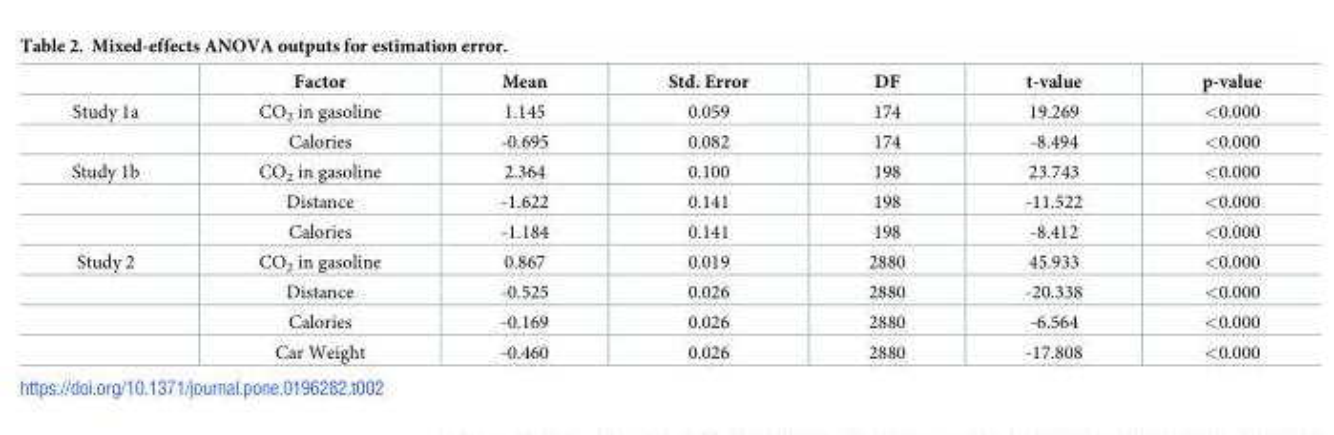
<table><thead><tr><td></td><td>Factor</td><td>Mean</td><td>Std. Error</td><td>DF</td><td>t-value</td><td>p-value</td></tr></thead><tbody><tr><td rowspan="2">Study 1a</td><td>CO<sub>2</sub> in gasoline</td><td>1.145</td><td>0.059</td><td>174</td><td>19.269</td><td>&lt;0.000</td></tr><tr><td>Calories</td><td>-0.695</td><td>0.082</td><td>174</td><td>-8.494</td><td>&lt;0.000</td></tr><tr><td rowspan="3">Study 1b</td><td>CO<sub>2</sub> in gasoline</td><td>2.364</td><td>0.100</td><td>198</td><td>23.743</td><td>&lt;0.000</td></tr><tr><td>Distance</td><td>-1.622</td><td>0.141</td><td>198</td><td>-11.522</td><td>&lt;0.000</td></tr><tr><td>Calories</td><td>-1.184</td><td>0.141</td><td>198</td><td>-8.412</td><td>&lt;0.000</td></tr><tr><td rowspan="4">Study 2</td><td>CO<sub>2</sub> in gasoline</td><td>0.867</td><td>0.019</td><td>2880</td><td>45.933</td><td>&lt;0.000</td></tr><tr><td>Distance</td><td>-0.525</td><td>0.026</td><td>2880</td><td>-20.338</td><td>&lt;0.000</td></tr><tr><td>Calories</td><td>-0.169</td><td>0.026</td><td>2880</td><td>-6.564</td><td>&lt;0.000</td></tr><tr><td>Car Weight</td><td>-0.460</td><td>0.026</td><td>2880</td><td>-17.808</td><td>&lt;0.000</td></tr></tbody></table>